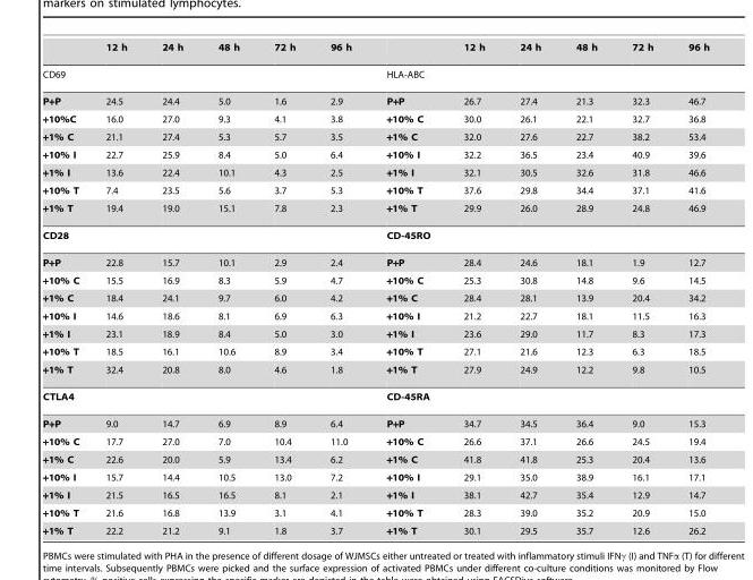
<table><thead><tr><td></td><td>12 h</td><td>24 h</td><td>48 h</td><td>72 h</td><td>96 h</td><td></td><td>12 h</td><td>24 h</td><td>48 h</td><td>72 h</td><td>96 h</td></tr></thead><tbody><tr><td colspan="6">CD69</td><td colspan="6">HLA-ABC</td></tr><tr><td>P+P</td><td>24.5</td><td>24.4</td><td>5.0</td><td>1.6</td><td>2.9</td><td>P+P</td><td>26.7</td><td>27.4</td><td>21.3</td><td>32.3</td><td>46.7</td></tr><tr><td>+10%C</td><td>16.0</td><td>27.0</td><td>9.3</td><td>4.1</td><td>3.8</td><td>+10% C</td><td>30.0</td><td>26.1</td><td>22.1</td><td>32.7</td><td>36.8</td></tr><tr><td>+1% C</td><td>21.1</td><td>27.4</td><td>5.3</td><td>5.7</td><td>3.5</td><td>+1% C</td><td>32.0</td><td>27.6</td><td>22.7</td><td>38.2</td><td>53.4</td></tr><tr><td>+10% I</td><td>22.7</td><td>25.9</td><td>8.4</td><td>5.0</td><td>6.4</td><td>+10% I</td><td>32.2</td><td>36.5</td><td>23.4</td><td>40.9</td><td>39.6</td></tr><tr><td>+1% I</td><td>13.6</td><td>22.4</td><td>10.1</td><td>4.3</td><td>2.5</td><td>+1% I</td><td>32.1</td><td>30.5</td><td>32.6</td><td>31.8</td><td>46.6</td></tr><tr><td>+10% T</td><td>7.4</td><td>23.5</td><td>5.6</td><td>3.7</td><td>5.3</td><td>+10% T</td><td>37.6</td><td>29.8</td><td>34.4</td><td>37.1</td><td>41.6</td></tr><tr><td>+1% T</td><td>19.4</td><td>19.0</td><td>15.1</td><td>7.8</td><td>2.3</td><td>+1% T</td><td>29.9</td><td>26.0</td><td>28.9</td><td>24.8</td><td>46.9</td></tr><tr><td colspan="6">CD28</td><td colspan="6">CD-45RO</td></tr><tr><td>P+P</td><td>22.8</td><td>15.7</td><td>10.1</td><td>2.9</td><td>2.4</td><td>P+P</td><td>28.4</td><td>24.6</td><td>18.1</td><td>1.9</td><td>12.7</td></tr><tr><td>+10% C</td><td>15.5</td><td>16.9</td><td>8.3</td><td>5.9</td><td>4.7</td><td>+10% C</td><td>25.3</td><td>30.8</td><td>14.8</td><td>9.6</td><td>14.5</td></tr><tr><td>+1% C</td><td>18.4</td><td>24.1</td><td>9.7</td><td>6.0</td><td>4.2</td><td>+1% C</td><td>28.4</td><td>28.1</td><td>13.9</td><td>20.4</td><td>34.2</td></tr><tr><td>+10% I</td><td>14.6</td><td>18.6</td><td>8.1</td><td>6.9</td><td>6.3</td><td>+10% I</td><td>21.2</td><td>22.7</td><td>18.1</td><td>11.5</td><td>16.3</td></tr><tr><td>+1% I</td><td>23.1</td><td>18.9</td><td>8.4</td><td>5.0</td><td>3.0</td><td>+1% I</td><td>23.6</td><td>29.0</td><td>11.7</td><td>8.3</td><td>17.3</td></tr><tr><td>+10% T</td><td>18.5</td><td>16.1</td><td>10.6</td><td>8.9</td><td>3.4</td><td>+10% T</td><td>27.1</td><td>21.6</td><td>12.3</td><td>6.3</td><td>18.5</td></tr><tr><td>+1% T</td><td>32.4</td><td>20.8</td><td>8.0</td><td>4.6</td><td>1.8</td><td>+1% T</td><td>27.9</td><td>24.9</td><td>12.2</td><td>9.8</td><td>10.5</td></tr><tr><td colspan="6">CTLA4</td><td colspan="6">CD-45RA</td></tr><tr><td>P+P</td><td>9.0</td><td>14.7</td><td>6.9</td><td>8.9</td><td>6.4</td><td>P+P</td><td>34.7</td><td>34.5</td><td>36.4</td><td>9.0</td><td>15.3</td></tr><tr><td>+10% C</td><td>17.7</td><td>27.0</td><td>7.0</td><td>10.4</td><td>11.0</td><td>+10% C</td><td>26.6</td><td>37.1</td><td>26.6</td><td>24.5</td><td>19.4</td></tr><tr><td>+1% C</td><td>22.6</td><td>20.0</td><td>5.9</td><td>13.4</td><td>6.2</td><td>+1% C</td><td>41.8</td><td>41.8</td><td>25.3</td><td>20.4</td><td>13.6</td></tr><tr><td>+10% I</td><td>15.7</td><td>14.4</td><td>10.5</td><td>13.0</td><td>7.2</td><td>+10% I</td><td>29.1</td><td>35.0</td><td>38.9</td><td>16.1</td><td>17.1</td></tr><tr><td>+1% I</td><td>21.5</td><td>16.5</td><td>16.5</td><td>8.1</td><td>2.1</td><td>+1% I</td><td>38.1</td><td>42.7</td><td>35.4</td><td>12.9</td><td>14.7</td></tr><tr><td>+10% T</td><td>21.6</td><td>16.8</td><td>13.9</td><td>3.1</td><td>4.1</td><td>+10% T</td><td>28.3</td><td>39.0</td><td>35.2</td><td>20.9</td><td>15.0</td></tr><tr><td>+1% T</td><td>22.2</td><td>21.2</td><td>9.1</td><td>1.8</td><td>3.7</td><td>+1% T</td><td>30.1</td><td>29.5</td><td>35.7</td><td>12.6</td><td>26.2</td></tr></tbody></table>